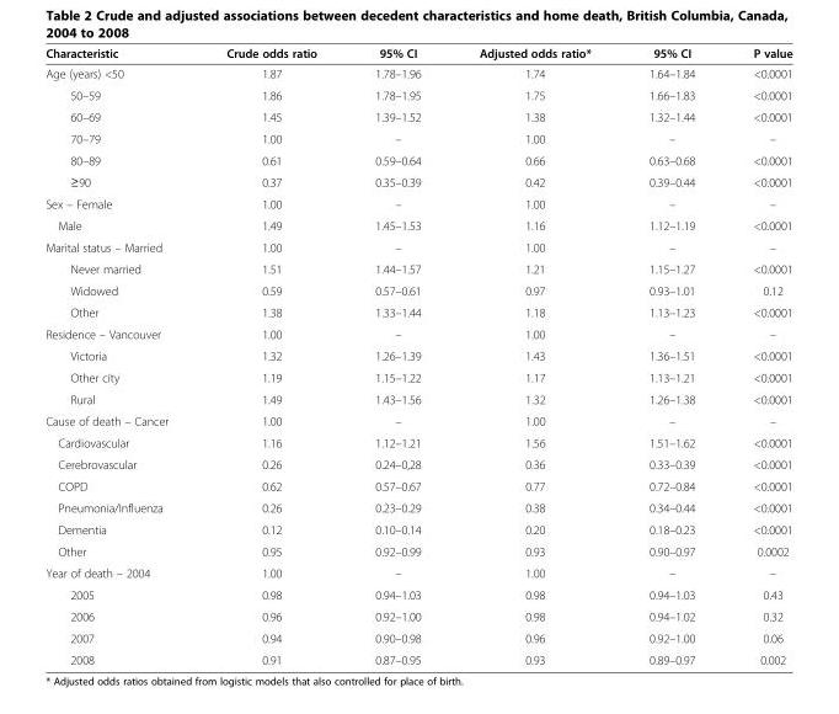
<table><thead><tr><td>Characteristic</td><td>Crude odds ratio</td><td>95% CI</td><td>Adjusted odds ratio*</td><td>95% CI</td><td>P value</td></tr></thead><tbody><tr><td>Age (years) &lt;50</td><td>1.87</td><td>1.78–1.96</td><td>1.74</td><td>1.64–1.84</td><td>&lt;0.0001</td></tr><tr><td>50–59</td><td>1.86</td><td>1.78–1.95</td><td>1.75</td><td>1.66–1.83</td><td>&lt;0.0001</td></tr><tr><td>60–69</td><td>1.45</td><td>1.39–1.52</td><td>1.38</td><td>1.32–1.44</td><td>&lt;0.0001</td></tr><tr><td>70–79</td><td>1.00</td><td>–</td><td>1.00</td><td>–</td><td>–</td></tr><tr><td>80–89</td><td>0.61</td><td>0.59–0.64</td><td>0.66</td><td>0.63–0.68</td><td>&lt;0.0001</td></tr><tr><td>≥90</td><td>0.37</td><td>0.35–0.39</td><td>0.42</td><td>0.39–0.44</td><td>&lt;0.0001</td></tr><tr><td>Sex – Female</td><td>1.00</td><td>–</td><td>1.00</td><td>–</td><td>–</td></tr><tr><td>Male</td><td>1.49</td><td>1.45–1.53</td><td>1.16</td><td>1.12–1.19</td><td>&lt;0.0001</td></tr><tr><td>Marital status – Married</td><td>1.00</td><td>–</td><td>1.00</td><td>–</td><td>–</td></tr><tr><td>Never married</td><td>1.51</td><td>1.44–1.57</td><td>1.21</td><td>1.15–1.27</td><td>&lt;0.0001</td></tr><tr><td>Widowed</td><td>0.59</td><td>0.57–0.61</td><td>0.97</td><td>0.93–1.01</td><td>0.12</td></tr><tr><td>Other</td><td>1.38</td><td>1.33–1.44</td><td>1.18</td><td>1.13–1.23</td><td>&lt;0.0001</td></tr><tr><td>Residence – Vancouver</td><td>1.00</td><td>–</td><td>1.00</td><td>–</td><td>–</td></tr><tr><td>Victoria</td><td>1.32</td><td>1.26–1.39</td><td>1.43</td><td>1.36–1.51</td><td>&lt;0.0001</td></tr><tr><td>Other city</td><td>1.19</td><td>1.15–1.22</td><td>1.17</td><td>1.13–1.21</td><td>&lt;0.0001</td></tr><tr><td>Rural</td><td>1.49</td><td>1.43–1.56</td><td>1.32</td><td>1.26–1.38</td><td>&lt;0.0001</td></tr><tr><td>Cause of death – Cancer</td><td>1.00</td><td>–</td><td>1.00</td><td>–</td><td>–</td></tr><tr><td>Cardiovascular</td><td>1.16</td><td>1.12–1.21</td><td>1.56</td><td>1.51–1.62</td><td>&lt;0.0001</td></tr><tr><td>Cerebrovascular</td><td>0.26</td><td>0.24–0,28</td><td>0.36</td><td>0.33–0.39</td><td>&lt;0.0001</td></tr><tr><td>COPD</td><td>0.62</td><td>0.57–0.67</td><td>0.77</td><td>0.72–0.84</td><td>&lt;0.0001</td></tr><tr><td>Pneumonia/Influenza</td><td>0.26</td><td>0.23–0.29</td><td>0.38</td><td>0.34–0.44</td><td>&lt;0.0001</td></tr><tr><td>Dementia</td><td>0.12</td><td>0.10–0.14</td><td>0.20</td><td>0.18–0.23</td><td>&lt;0.0001</td></tr><tr><td>Other</td><td>0.95</td><td>0.92–0.99</td><td>0.93</td><td>0.90–0.97</td><td>0.0002</td></tr><tr><td>Year of death – 2004</td><td>1.00</td><td>–</td><td>1.00</td><td>–</td><td>–</td></tr><tr><td>2005</td><td>0.98</td><td>0.94–1.03</td><td>0.98</td><td>0.94–1.03</td><td>0.43</td></tr><tr><td>2006</td><td>0.96</td><td>0.92–1.00</td><td>0.98</td><td>0.94–1.02</td><td>0.32</td></tr><tr><td>2007</td><td>0.94</td><td>0.90–0.98</td><td>0.96</td><td>0.92–1.00</td><td>0.06</td></tr><tr><td>2008</td><td>0.91</td><td>0.87–0.95</td><td>0.93</td><td>0.89–0.97</td><td>0.002</td></tr></tbody></table>